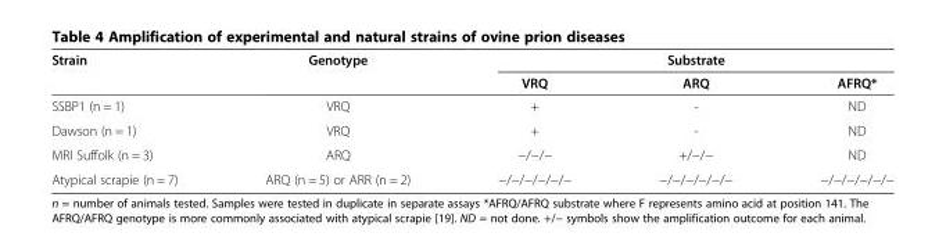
<table><thead><tr><td rowspan="2">Strain</td><td rowspan="2">Genotype</td><td colspan="3">Substrate</td></tr><tr><td>VRQ</td><td>ARQ</td><td>AFRQ*</td></tr></thead><tbody><tr><td>SSBP1 (n = 1)</td><td>VRQ</td><td>+</td><td>-</td><td>ND</td></tr><tr><td>Dawson (n = 1)</td><td>VRQ</td><td>+</td><td>-</td><td>ND</td></tr><tr><td>MRI Suffolk (n = 3)</td><td>ARQ</td><td>−/−/−</td><td>+/−/−</td><td>ND</td></tr><tr><td>Atypical scrapie (n = 7)</td><td>ARQ (n = 5) or ARR (n = 2)</td><td>−/−/−/−/−/−</td><td>−/−/−/−/−/−</td><td>−/−/−/−/−/−</td></tr></tbody></table>